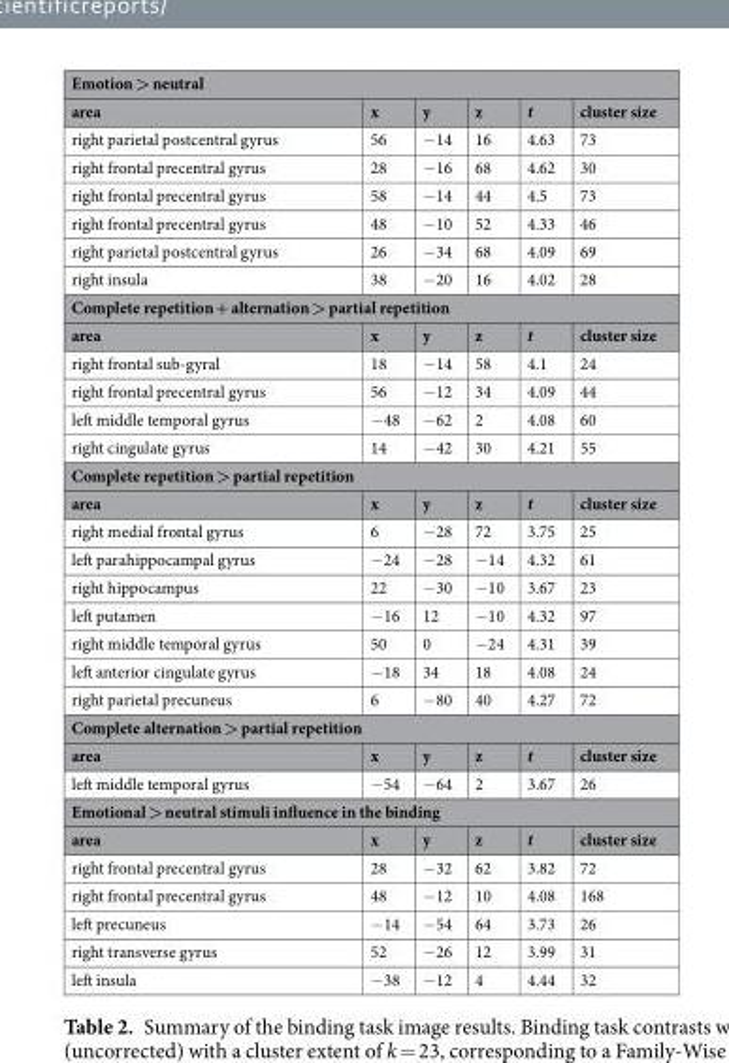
<table><thead><tr><td colspan="6">Emotion &gt; neutral</td></tr><tr><td>area</td><td>x</td><td>y</td><td>z</td><td>t</td><td>cluster size</td></tr></thead><tbody><tr><td>right parietal postcentral gyrus</td><td>56</td><td>−14</td><td>16</td><td>4.63</td><td>73</td></tr><tr><td>right frontal precentral gyrus</td><td>28</td><td>−16</td><td>68</td><td>4.62</td><td>30</td></tr><tr><td>right frontal precentral gyrus</td><td>58</td><td>−14</td><td>44</td><td>4.5</td><td>73</td></tr><tr><td>right frontal precentral gyrus</td><td>48</td><td>−10</td><td>52</td><td>4.33</td><td>46</td></tr><tr><td>right parietal postcentral gyrus</td><td>26</td><td>−34</td><td>68</td><td>4.09</td><td>69</td></tr><tr><td>right insula</td><td>38</td><td>−20</td><td>16</td><td>4.02</td><td>28</td></tr><tr><td colspan="6">Complete repetition + alternation &gt; partial repetition</td></tr><tr><td>area</td><td>x</td><td>y</td><td>z</td><td>t</td><td>cluster size</td></tr><tr><td>right frontal sub-gyral</td><td>18</td><td>−14</td><td>58</td><td>4.1</td><td>24</td></tr><tr><td>right frontal precentral gyrus</td><td>56</td><td>−12</td><td>34</td><td>4.09</td><td>44</td></tr><tr><td>left middle temporal gyrus</td><td>−48</td><td>−62</td><td>2</td><td>4.08</td><td>60</td></tr><tr><td>right cingulate gyrus</td><td>14</td><td>−42</td><td>30</td><td>4.21</td><td>55</td></tr><tr><td colspan="6">Complete repetition &gt; partial repetition</td></tr><tr><td>area</td><td>x</td><td>y</td><td>z</td><td>t</td><td>cluster size</td></tr><tr><td>right medial frontal gyrus</td><td>6</td><td>−28</td><td>72</td><td>3.75</td><td>25</td></tr><tr><td>left parahippocampal gyrus</td><td>−24</td><td>−28</td><td>−14</td><td>4.32</td><td>61</td></tr><tr><td>right hippocampus</td><td>22</td><td>−30</td><td>−10</td><td>3.67</td><td>23</td></tr><tr><td>left putamen</td><td>−16</td><td>12</td><td>−10</td><td>4.32</td><td>97</td></tr><tr><td>right middle temporal gyrus</td><td>50</td><td>0</td><td>−24</td><td>4.31</td><td>39</td></tr><tr><td>left anterior cingulate gyrus</td><td>−18</td><td>34</td><td>18</td><td>4.08</td><td>24</td></tr><tr><td>right parietal precuneus</td><td>6</td><td>−80</td><td>40</td><td>4.27</td><td>72</td></tr><tr><td colspan="6">Complete alternation &gt; partial repetition</td></tr><tr><td>area</td><td>x</td><td>y</td><td>z</td><td>t</td><td>cluster size</td></tr><tr><td>left middle temporal gyrus</td><td>−54</td><td>−64</td><td>2</td><td>3.67</td><td>26</td></tr><tr><td colspan="6">Emotional &gt; neutral stimuli influence in the binding</td></tr><tr><td>area</td><td>x</td><td>y</td><td>z</td><td>t</td><td>cluster size</td></tr><tr><td>right frontal precentral gyrus</td><td>28</td><td>−32</td><td>62</td><td>3.82</td><td>72</td></tr><tr><td>right frontal precentral gyrus</td><td>48</td><td>−12</td><td>10</td><td>4.08</td><td>168</td></tr><tr><td>left precuneus</td><td>−14</td><td>−54</td><td>64</td><td>3.73</td><td>26</td></tr><tr><td>right transverse gyrus</td><td>52</td><td>−26</td><td>12</td><td>3.99</td><td>31</td></tr><tr><td>left insula</td><td>−38</td><td>−12</td><td>4</td><td>4.44</td><td>32</td></tr></tbody></table>